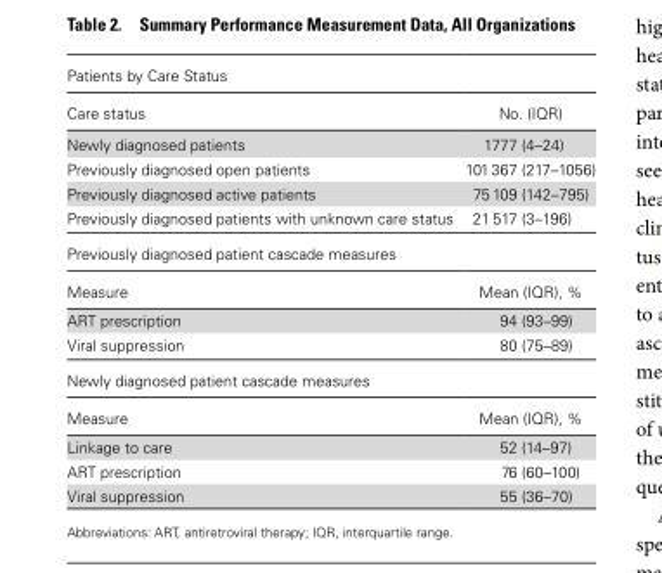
<table><thead><tr><td colspan="2">Patients by Care Status</td></tr><tr><td>Care status</td><td>No. (IQR)</td></tr></thead><tbody><tr><td>Newly diagnosed patients</td><td>1777 (4–24)</td></tr><tr><td>Previously diagnosed open patients</td><td>101 367 (217–1056)</td></tr><tr><td>Previously diagnosed active patients</td><td>75 109 (142–795)</td></tr><tr><td>Previously diagnosed patients with unknown care status</td><td>21 517 (3–196)</td></tr><tr><td colspan="2">Previously diagnosed patient cascade measures</td></tr><tr><td>Measure</td><td>Mean (IQR), %</td></tr><tr><td>ART prescription</td><td>94 (93–99)</td></tr><tr><td>Viral suppression</td><td>80 (75–89)</td></tr><tr><td colspan="2">Newly diagnosed patient cascade measures</td></tr><tr><td>Measure</td><td>Mean (IQR), %</td></tr><tr><td>Linkage to care</td><td>52 (14–97)</td></tr><tr><td>ART prescription</td><td>76 (60–100)</td></tr><tr><td>Viral suppression</td><td>55 (36–70)</td></tr></tbody></table>